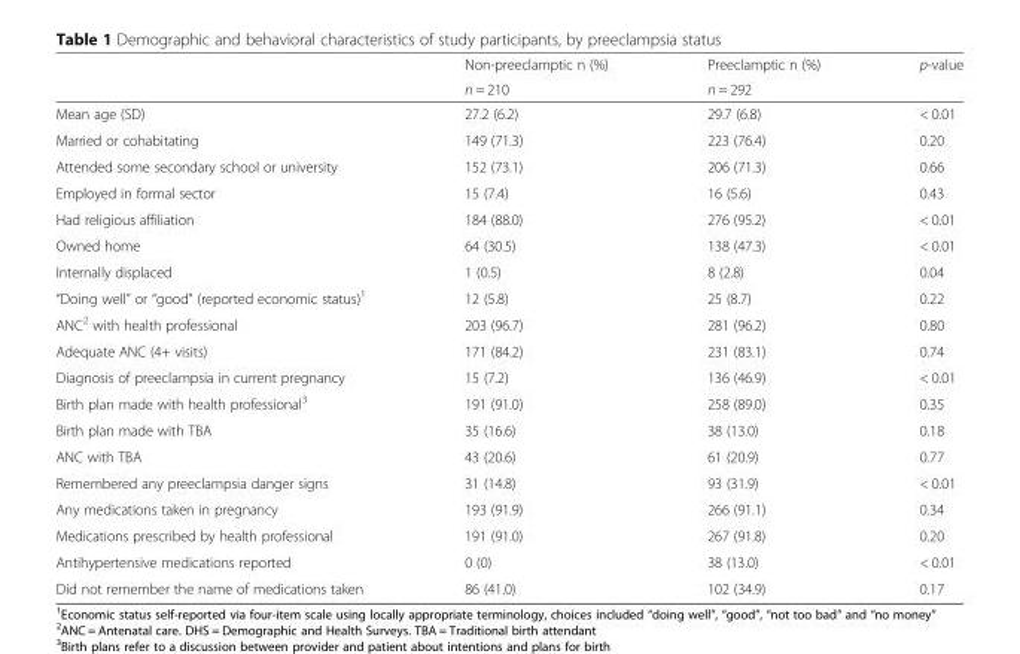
<table><thead><tr><td rowspan="2"></td><td rowspan="2">Non-preeclamptic n (%) n = 210</td><td rowspan="2">Preeclamptic n (%) n = 292</td><td rowspan="2">p-value</td></tr><tr></tr></thead><tbody><tr><td>Mean age (SD)</td><td>27.2 (6.2)</td><td>29.7 (6.8)</td><td>&lt; 0.01</td></tr><tr><td>Married or cohabitating</td><td>149 (71.3)</td><td>223 (76.4)</td><td>0.20</td></tr><tr><td>Attended some secondary school or university</td><td>152 (73.1)</td><td>206 (71.3)</td><td>0.66</td></tr><tr><td>Employed in formal sector</td><td>15 (7.4)</td><td>16 (5.6)</td><td>0.43</td></tr><tr><td>Had religious affiliation</td><td>184 (88.0)</td><td>276 (95.2)</td><td>&lt; 0.01</td></tr><tr><td>Owned home</td><td>64 (30.5)</td><td>138 (47.3)</td><td>&lt; 0.01</td></tr><tr><td>Internally displaced</td><td>1 (0.5)</td><td>8 (2.8)</td><td>0.04</td></tr><tr><td>“Doing well” or “good” (reported economic status)<sup>1</sup></td><td>12 (5.8)</td><td>25 (8.7)</td><td>0.22</td></tr><tr><td>ANC<sup>2</sup> with health professional</td><td>203 (96.7)</td><td>281 (96.2)</td><td>0.80</td></tr><tr><td>Adequate ANC (4+ visits)</td><td>171 (84.2)</td><td>231 (83.1)</td><td>0.74</td></tr><tr><td>Diagnosis of preeclampsia in current pregnancy</td><td>15 (7.2)</td><td>136 (46.9)</td><td>&lt; 0.01</td></tr><tr><td>Birth plan made with health professional<sup>3</sup></td><td>191 (91.0)</td><td>258 (89.0)</td><td>0.35</td></tr><tr><td>Birth plan made with TBA</td><td>35 (16.6)</td><td>38 (13.0)</td><td>0.18</td></tr><tr><td>ANC with TBA</td><td>43 (20.6)</td><td>61 (20.9)</td><td>0.77</td></tr><tr><td>Remembered any preeclampsia danger signs</td><td>31 (14.8)</td><td>93 (31.9)</td><td>&lt; 0.01</td></tr><tr><td>Any medications taken in pregnancy</td><td>193 (91.9)</td><td>266 (91.1)</td><td>0.34</td></tr><tr><td>Medications prescribed by health professional</td><td>191 (91.0)</td><td>267 (91.8)</td><td>0.20</td></tr><tr><td>Antihypertensive medications reported</td><td>0 (0)</td><td>38 (13.0)</td><td>&lt; 0.01</td></tr><tr><td>Did not remember the name of medications taken</td><td>86 (41.0)</td><td>102 (34.9)</td><td>0.17</td></tr></tbody></table>